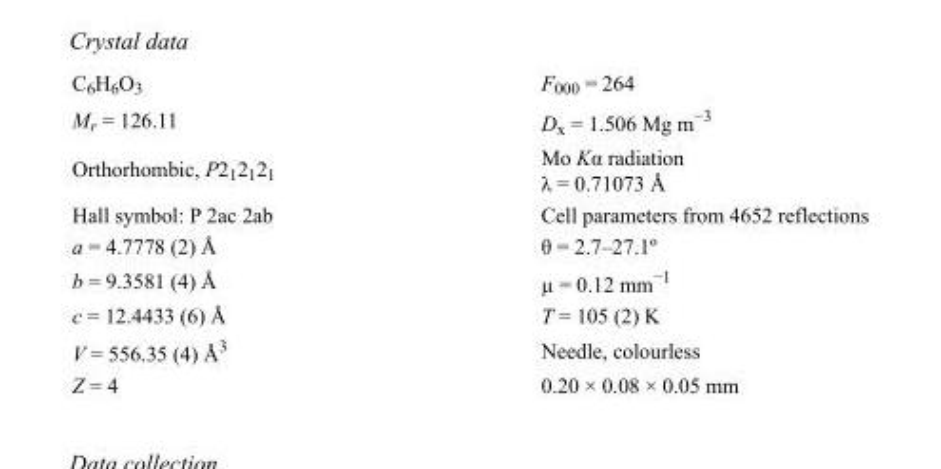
<table><tbody><tr><td>C<sub>6</sub>H<sub>6</sub>O<sub>3</sub></td><td>F000 = 264</td></tr><tr><td>M<sub>r</sub> = 126.11</td><td>D<sub>x</sub> = 1.506 Mg m<sup>−3</sup></td></tr><tr><td>Orthorhombic, P2<sub>1</sub>2<sub>1</sub>2<sub>1</sub></td><td>Mo Kα radiation λ = 0.71073 Å</td></tr><tr><td>Hall symbol: P 2ac 2ab</td><td>Cell parameters from 4652 reflections</td></tr><tr><td>a = 4.7778 (2) Å</td><td>θ = 2.7–27.1º</td></tr><tr><td>b = 9.3581 (4) Å</td><td>µ = 0.12 mm<sup>−1</sup></td></tr><tr><td>c = 12.4433 (6) Å</td><td>T = 105 (2) K</td></tr><tr><td>V = 556.35 (4) Å<sup>3</sup></td><td>Needle, colourless</td></tr><tr><td>Z = 4</td><td>0.20 × 0.08 × 0.05 mm</td></tr></tbody></table>